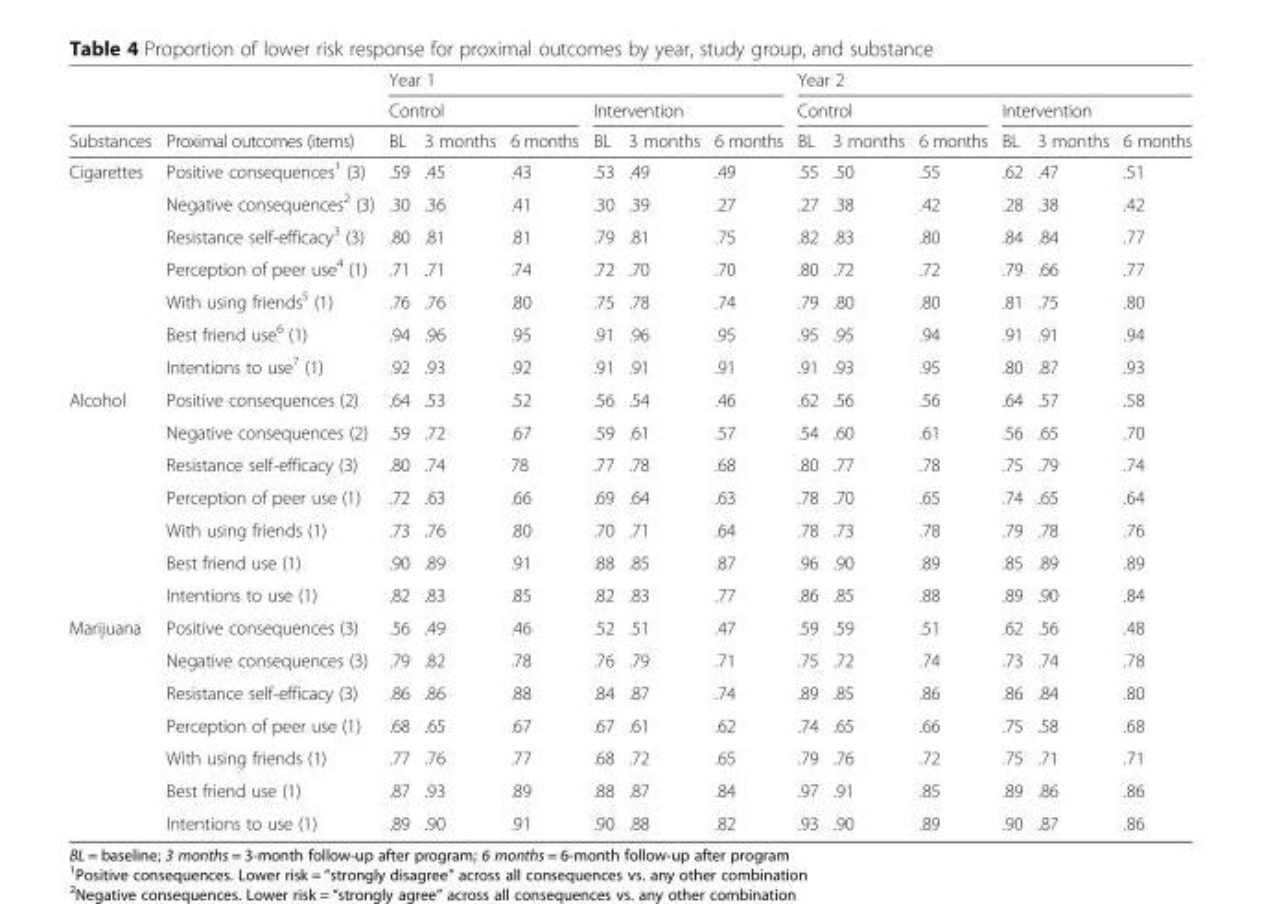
<table><thead><tr><td rowspan="3">Substances</td><td rowspan="3">Proximal outcomes (items)</td><td colspan="6">Year 1</td><td colspan="6">Year 2</td></tr><tr><td colspan="3">Control</td><td colspan="3">Intervention</td><td colspan="3">Control</td><td colspan="3">Intervention</td></tr><tr><td>BL</td><td>3 months</td><td>6 months</td><td>BL</td><td>3 months</td><td>6 months</td><td>BL</td><td>3 months</td><td>6 months</td><td>BL</td><td>3 months</td><td>6 months</td></tr></thead><tbody><tr><td rowspan="7">Cigarettes</td><td>Positive consequences<sup>1</sup> (3)</td><td>.59</td><td>.45</td><td>.43</td><td>.53</td><td>.49</td><td>.49</td><td>.55</td><td>.50</td><td>.55</td><td>.62</td><td>.47</td><td>.51</td></tr><tr><td>Negative consequences<sup>2</sup> (3)</td><td>.30</td><td>.36</td><td>.41</td><td>.30</td><td>.39</td><td>.27</td><td>.27</td><td>.38</td><td>.42</td><td>.28</td><td>.38</td><td>.42</td></tr><tr><td>Resistance self-efficacy<sup>3</sup> (3)</td><td>.80</td><td>.81</td><td>.81</td><td>.79</td><td>.81</td><td>.75</td><td>.82</td><td>.83</td><td>.80</td><td>.84</td><td>.84</td><td>.77</td></tr><tr><td>Perception of peer use<sup>4</sup> (1)</td><td>.71</td><td>.71</td><td>.74</td><td>.72</td><td>.70</td><td>.70</td><td>.80</td><td>.72</td><td>.72</td><td>.79</td><td>.66</td><td>.77</td></tr><tr><td>With using friends<sup>5</sup> (1)</td><td>.76</td><td>.76</td><td>.80</td><td>.75</td><td>.78</td><td>.74</td><td>.79</td><td>.80</td><td>.80</td><td>.81</td><td>.75</td><td>.80</td></tr><tr><td>Best friend use<sup>6</sup> (1)</td><td>.94</td><td>.96</td><td>.95</td><td>.91</td><td>.96</td><td>.95</td><td>.95</td><td>.95</td><td>.94</td><td>.91</td><td>.91</td><td>.94</td></tr><tr><td>Intentions to use<sup>7</sup> (1)</td><td>.92</td><td>.93</td><td>.92</td><td>.91</td><td>.91</td><td>.91</td><td>.91</td><td>.93</td><td>.95</td><td>.80</td><td>.87</td><td>.93</td></tr><tr><td rowspan="7">Alcohol</td><td>Positive consequences (2)</td><td>.64</td><td>.53</td><td>.52</td><td>.56</td><td>.54</td><td>.46</td><td>.62</td><td>.56</td><td>.56</td><td>.64</td><td>.57</td><td>.58</td></tr><tr><td>Negative consequences (2)</td><td>.59</td><td>.72</td><td>.67</td><td>.59</td><td>.61</td><td>.57</td><td>.54</td><td>.60</td><td>.61</td><td>.56</td><td>.65</td><td>.70</td></tr><tr><td>Resistance self-efficacy (3)</td><td>.80</td><td>.74</td><td>78</td><td>.77</td><td>.78</td><td>.68</td><td>.80</td><td>.77</td><td>.78</td><td>.75</td><td>.79</td><td>.74</td></tr><tr><td>Perception of peer use (1)</td><td>.72</td><td>.63</td><td>.66</td><td>.69</td><td>.64</td><td>.63</td><td>.78</td><td>.70</td><td>.65</td><td>.74</td><td>.65</td><td>.64</td></tr><tr><td>With using friends (1)</td><td>.73</td><td>.76</td><td>.80</td><td>.70</td><td>.71</td><td>.64</td><td>.78</td><td>.73</td><td>.78</td><td>.79</td><td>.78</td><td>.76</td></tr><tr><td>Best friend use (1)</td><td>.90</td><td>.89</td><td>.91</td><td>.88</td><td>.85</td><td>.87</td><td>.96</td><td>.90</td><td>.89</td><td>.85</td><td>.89</td><td>.89</td></tr><tr><td>Intentions to use (1)</td><td>.82</td><td>.83</td><td>.85</td><td>.82</td><td>.83</td><td>.77</td><td>.86</td><td>.85</td><td>.88</td><td>.89</td><td>.90</td><td>.84</td></tr><tr><td rowspan="7">Marijuana</td><td>Positive consequences (3)</td><td>.56</td><td>.49</td><td>.46</td><td>.52</td><td>.51</td><td>.47</td><td>.59</td><td>.59</td><td>.51</td><td>.62</td><td>.56</td><td>.48</td></tr><tr><td>Negative consequences (3)</td><td>.79</td><td>.82</td><td>.78</td><td>.76</td><td>.79</td><td>.71</td><td>.75</td><td>.72</td><td>.74</td><td>.73</td><td>.74</td><td>.78</td></tr><tr><td>Resistance self-efficacy (3)</td><td>.86</td><td>.86</td><td>.88</td><td>.84</td><td>.87</td><td>.74</td><td>.89</td><td>.85</td><td>.86</td><td>.86</td><td>.84</td><td>.80</td></tr><tr><td>Perception of peer use (1)</td><td>.68</td><td>.65</td><td>.67</td><td>.67</td><td>.61</td><td>.62</td><td>.74</td><td>.65</td><td>.66</td><td>.75</td><td>.58</td><td>.68</td></tr><tr><td>With using friends (1)</td><td>.77</td><td>.76</td><td>.77</td><td>.68</td><td>.72</td><td>.65</td><td>.79</td><td>.76</td><td>.72</td><td>.75</td><td>.71</td><td>.71</td></tr><tr><td>Best friend use (1)</td><td>.87</td><td>.93</td><td>.89</td><td>.88</td><td>.87</td><td>.84</td><td>.97</td><td>.91</td><td>.85</td><td>.89</td><td>.86</td><td>.86</td></tr><tr><td>Intentions to use (1)</td><td>.89</td><td>.90</td><td>.91</td><td>.90</td><td>.88</td><td>.82</td><td>.93</td><td>.90</td><td>.89</td><td>.90</td><td>.87</td><td>.86</td></tr></tbody></table>